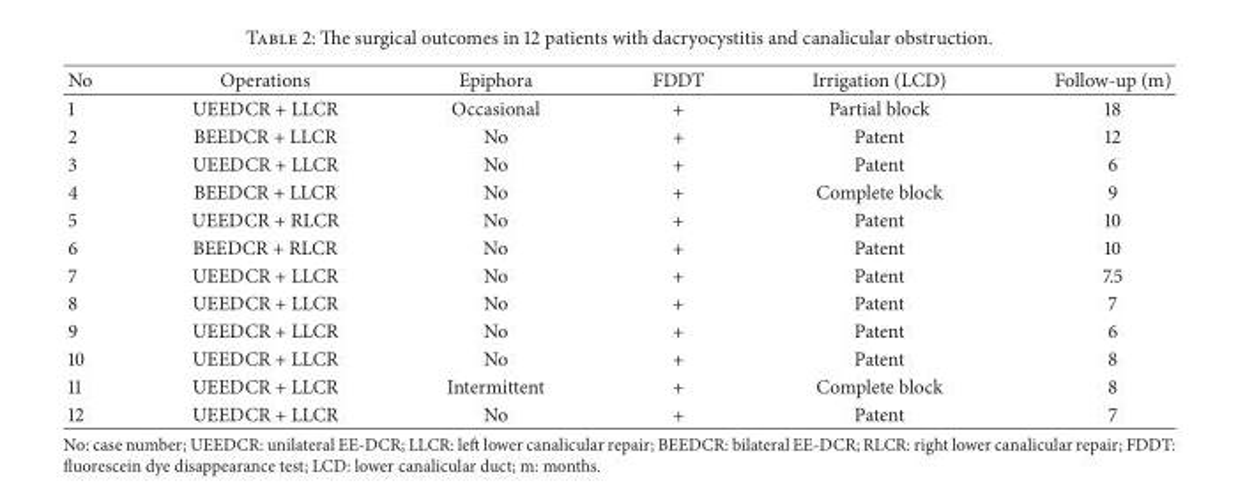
<table><thead><tr><td>No</td><td>Operations</td><td>Epiphora</td><td>FDDT</td><td>Irrigation (LCD)</td><td>Follow-up (m)</td></tr></thead><tbody><tr><td>1</td><td>UEEDCR + LLCR</td><td>Occasional</td><td>+</td><td>Partial block</td><td>18</td></tr><tr><td>2</td><td>BEEDCR + LLCR</td><td>No</td><td>+</td><td>Patent</td><td>12</td></tr><tr><td>3</td><td>UEEDCR + LLCR</td><td>No</td><td>+</td><td>Patent</td><td>6</td></tr><tr><td>4</td><td>BEEDCR + LLCR</td><td>No</td><td>+</td><td>Complete block</td><td>9</td></tr><tr><td>5</td><td>UEEDCR + RLCR</td><td>No</td><td>+</td><td>Patent</td><td>10</td></tr><tr><td>6</td><td>BEEDCR + RLCR</td><td>No</td><td>+</td><td>Patent</td><td>10</td></tr><tr><td>7</td><td>UEEDCR + LLCR</td><td>No</td><td>+</td><td>Patent</td><td>7.5</td></tr><tr><td>8</td><td>UEEDCR + LLCR</td><td>No</td><td>+</td><td>Patent</td><td>7</td></tr><tr><td>9</td><td>UEEDCR + LLCR</td><td>No</td><td>+</td><td>Patent</td><td>6</td></tr><tr><td>10</td><td>UEEDCR + LLCR</td><td>No</td><td>+</td><td>Patent</td><td>8</td></tr><tr><td>11</td><td>UEEDCR + LLCR</td><td>Intermittent</td><td>+</td><td>Complete block</td><td>8</td></tr><tr><td>12</td><td>UEEDCR + LLCR</td><td>No</td><td>+</td><td>Patent</td><td>7</td></tr></tbody></table>